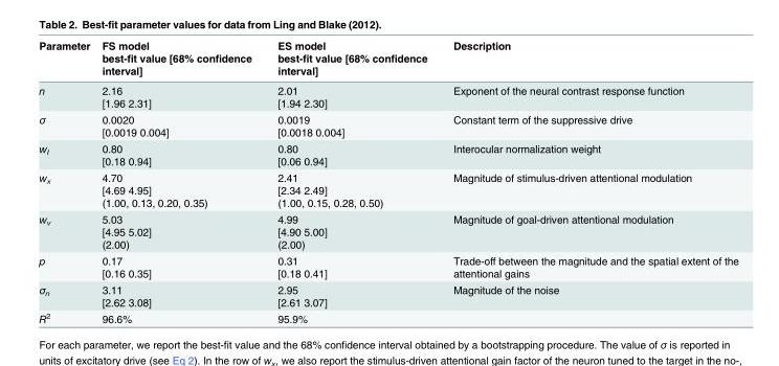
<table><thead><tr><td rowspan="2">Parameter</td><td rowspan="2">FS model best-fit value [68% confidence interval]</td><td rowspan="2">ES model best-fit value [68% confidence interval]</td><td rowspan="2">Description</td></tr><tr></tr></thead><tbody><tr><td>n</td><td>2.16 [1.96 2.31]</td><td>2.01 [1.94 2.30]</td><td>Exponent of the neural contrast response function</td></tr><tr><td>σ</td><td>0.0020 [0.0019 0.004]</td><td>0.0019 [0.0018 0.004]</td><td>Constant term of the suppressive drive</td></tr><tr><td>w<sub>I</sub></td><td>0.80 [0.18 0.94]</td><td>0.80 [0.06 0.94]</td><td>Interocular normalization weight</td></tr><tr><td>w<sub>x</sub></td><td>4.70 [4.69 4.95] (1.00, 0.13, 0.20, 0.35)</td><td>2.41 [2.34 2.49] (1.00, 0.15, 0.28, 0.50)</td><td>Magnitude of stimulus-driven attentional modulation</td></tr><tr><td>w<sub>v</sub></td><td>5.03 [4.95 5.02] (2.00)</td><td>4.99 [4.90 5.00] (2.00)</td><td>Magnitude of goal-driven attentional modulation</td></tr><tr><td>p</td><td>0.17 [0.16 0.35]</td><td>0.31 [0.18 0.41]</td><td>Trade-off between the magnitude and the spatial extent of the attentional gains</td></tr><tr><td>σ<sub>n</sub></td><td>3.11 [2.62 3.08]</td><td>2.95 [2.61 3.07]</td><td>Magnitude of the noise</td></tr><tr><td>R<sup>2</sup></td><td>96.6%</td><td>95.9%</td><td></td></tr></tbody></table>